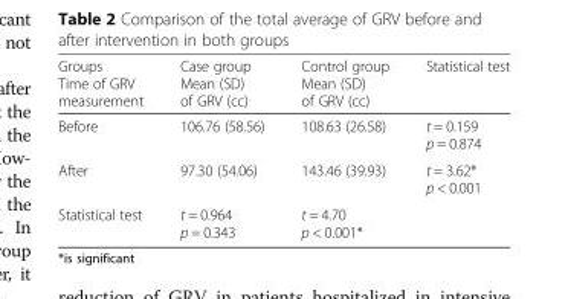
<table><thead><tr><td>Groups Time of GRV measurement</td><td>Case group Mean (SD) of GRV (cc)</td><td>Control group Mean (SD) of GRV (cc)</td><td>Statistical test</td></tr></thead><tbody><tr><td>Before</td><td>106.76 (58.56)</td><td>108.63 (26.58)</td><td>t = 0.159 p = 0.874</td></tr><tr><td>After</td><td>97.30 (54.06)</td><td>143.46 (39.93)</td><td>t = 3.62* p &lt; 0.001</td></tr><tr><td>Statistical test</td><td>t = 0.964 p = 0.343</td><td>t = 4.70 p &lt; 0.001*</td><td></td></tr></tbody></table>